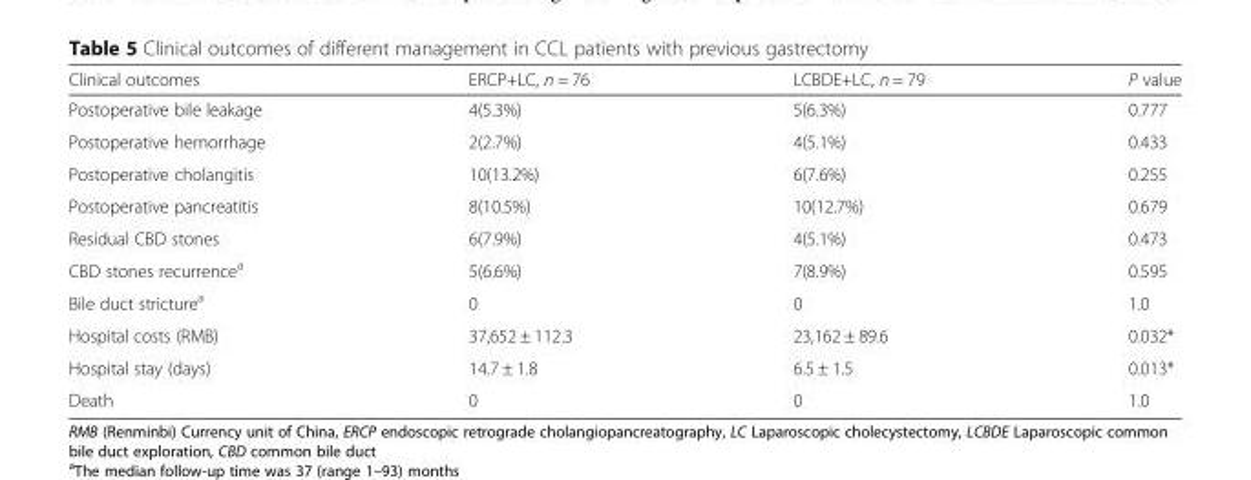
<table><thead><tr><td>Clinical outcomes</td><td>ERCP+LC, n = 76</td><td>LCBDE+LC, n = 79</td><td>P value</td></tr></thead><tbody><tr><td>Postoperative bile leakage</td><td>4(5.3%)</td><td>5(6.3%)</td><td>0.777</td></tr><tr><td>Postoperative hemorrhage</td><td>2(2.7%)</td><td>4(5.1%)</td><td>0.433</td></tr><tr><td>Postoperative cholangitis</td><td>10(13.2%)</td><td>6(7.6%)</td><td>0.255</td></tr><tr><td>Postoperative pancreatitis</td><td>8(10.5%)</td><td>10(12.7%)</td><td>0.679</td></tr><tr><td>Residual CBD stones</td><td>6(7.9%)</td><td>4(5.1%)</td><td>0.473</td></tr><tr><td>CBD stones recurrence<sup>a</sup></td><td>5(6.6%)</td><td>7(8.9%)</td><td>0.595</td></tr><tr><td>Bile duct stricture<sup>a</sup></td><td>0</td><td>0</td><td>1.0</td></tr><tr><td>Hospital costs (RMB)</td><td>37,652 ± 112.3</td><td>23,162 ± 89.6</td><td>0.032*</td></tr><tr><td>Hospital stay (days)</td><td>14.7 ± 1.8</td><td>6.5 ± 1.5</td><td>0.013*</td></tr><tr><td>Death</td><td>0</td><td>0</td><td>1.0</td></tr></tbody></table>